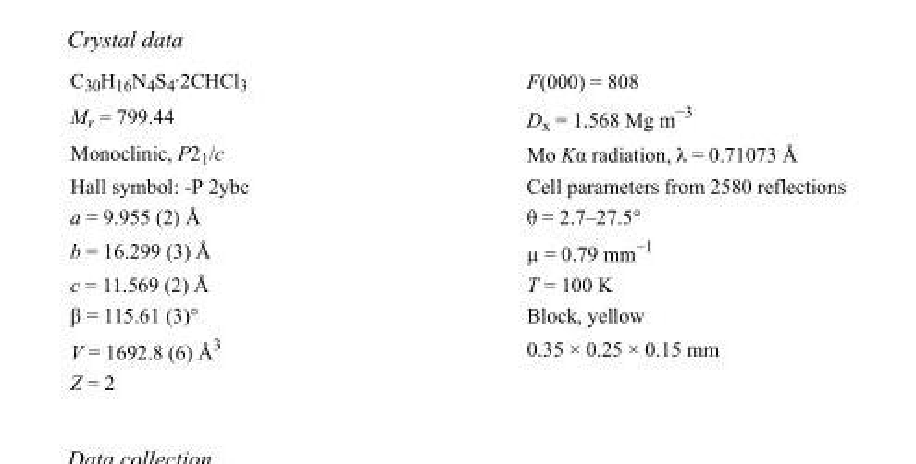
<table><tbody><tr><td>C<sub>30</sub>H<sub>16</sub>N<sub>4</sub>S<sub>4</sub>·2CHCl<sub>3</sub></td><td>F(000) = 808</td></tr><tr><td>M<sub>r</sub> = 799.44</td><td>D<sub>x</sub> = 1.568 Mg m<sup>−3</sup></td></tr><tr><td>Monoclinic, P2<sub>1</sub>/c</td><td>Mo Kα radiation, λ = 0.71073 Å</td></tr><tr><td>Hall symbol: -P 2ybc</td><td>Cell parameters from 2580 reflections</td></tr><tr><td>a = 9.955 (2) Å</td><td>θ = 2.7–27.5°</td></tr><tr><td>b = 16.299 (3) Å</td><td>µ = 0.79 mm<sup>−1</sup></td></tr><tr><td>c = 11.569 (2) Å</td><td>T = 100 K</td></tr><tr><td>β = 115.61 (3)°</td><td>Block, yellow</td></tr><tr><td>V = 1692.8 (6) Å<sup>3</sup></td><td>0.35 × 0.25 × 0.15 mm</td></tr><tr><td>Z = 2</td><td></td></tr></tbody></table>